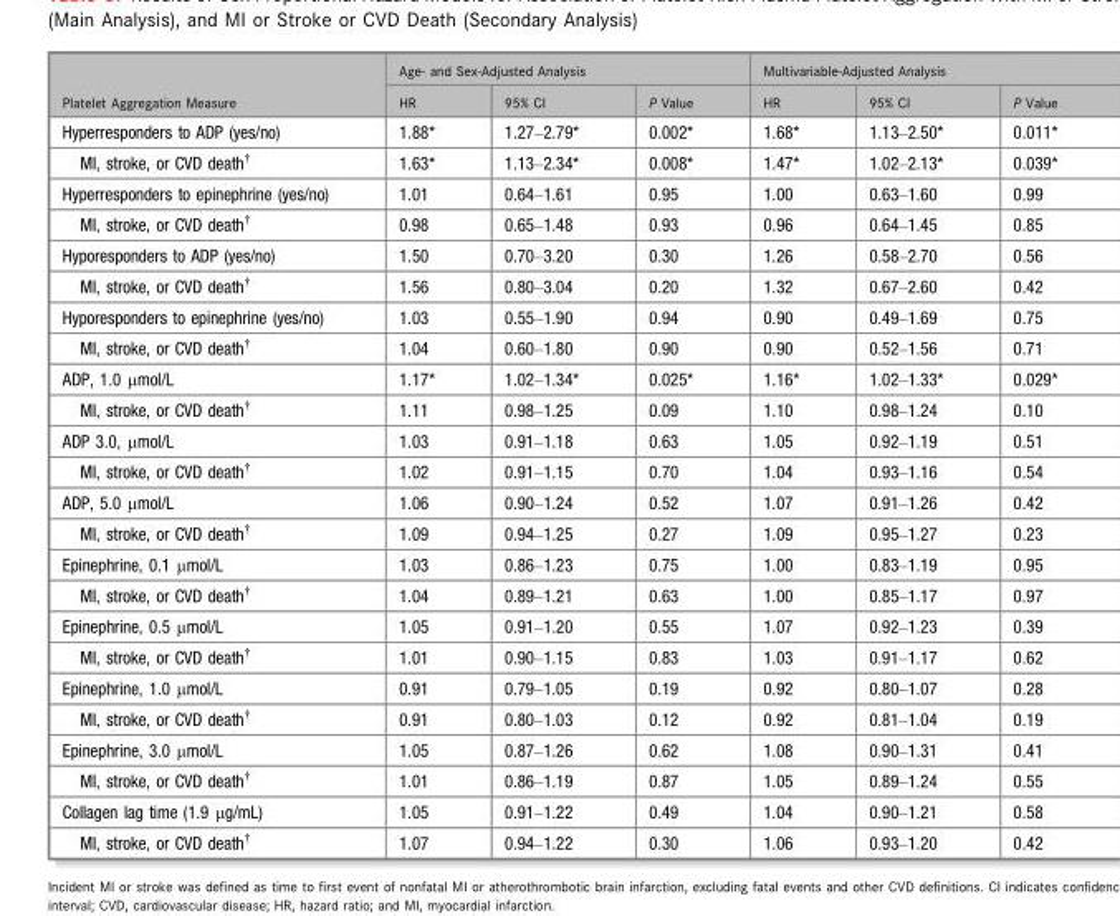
<table><thead><tr><td rowspan="2">Platelet Aggregation Measure</td><td colspan="3">Age- and Sex-Adjusted Analysis</td><td colspan="3">Multivariable-Adjusted Analysis</td></tr><tr><td>HR</td><td>95% CI</td><td>P Value</td><td>HR</td><td>95% CI</td><td>P Value</td></tr></thead><tbody><tr><td>Hyperresponders to ADP (yes/no)</td><td>1.88*</td><td>1.27–2.79*</td><td>0.002*</td><td>1.68*</td><td>1.13–2.50*</td><td>0.011*</td></tr><tr><td>MI, stroke, or CVD death†</td><td>1.63*</td><td>1.13–2.34*</td><td>0.008*</td><td>1.47*</td><td>1.02–2.13*</td><td>0.039*</td></tr><tr><td>Hyperresponders to epinephrine (yes/no)</td><td>1.01</td><td>0.64–1.61</td><td>0.95</td><td>1.00</td><td>0.63–1.60</td><td>0.99</td></tr><tr><td>MI, stroke, or CVD death†</td><td>0.98</td><td>0.65–1.48</td><td>0.93</td><td>0.96</td><td>0.64–1.45</td><td>0.85</td></tr><tr><td>Hyporesponders to ADP (yes/no)</td><td>1.50</td><td>0.70–3.20</td><td>0.30</td><td>1.26</td><td>0.58–2.70</td><td>0.56</td></tr><tr><td>MI, stroke, or CVD death†</td><td>1.56</td><td>0.80–3.04</td><td>0.20</td><td>1.32</td><td>0.67–2.60</td><td>0.42</td></tr><tr><td>Hyporesponders to epinephrine (yes/no)</td><td>1.03</td><td>0.55–1.90</td><td>0.94</td><td>0.90</td><td>0.49–1.69</td><td>0.75</td></tr><tr><td>MI, stroke, or CVD death†</td><td>1.04</td><td>0.60–1.80</td><td>0.90</td><td>0.90</td><td>0.52–1.56</td><td>0.71</td></tr><tr><td>ADP, 1.0 μmol/L</td><td>1.17*</td><td>1.02–1.34*</td><td>0.025*</td><td>1.16*</td><td>1.02–1.33*</td><td>0.029*</td></tr><tr><td>MI, stroke, or CVD death†</td><td>1.11</td><td>0.98–1.25</td><td>0.09</td><td>1.10</td><td>0.98–1.24</td><td>0.10</td></tr><tr><td>ADP 3.0, μmol/L</td><td>1.03</td><td>0.91–1.18</td><td>0.63</td><td>1.05</td><td>0.92–1.19</td><td>0.51</td></tr><tr><td>MI, stroke, or CVD death†</td><td>1.02</td><td>0.91–1.15</td><td>0.70</td><td>1.04</td><td>0.93–1.16</td><td>0.54</td></tr><tr><td>ADP, 5.0 μmol/L</td><td>1.06</td><td>0.90–1.24</td><td>0.52</td><td>1.07</td><td>0.91–1.26</td><td>0.42</td></tr><tr><td>MI, stroke, or CVD death†</td><td>1.09</td><td>0.94–1.25</td><td>0.27</td><td>1.09</td><td>0.95–1.27</td><td>0.23</td></tr><tr><td>Epinephrine, 0.1 μmol/L</td><td>1.03</td><td>0.86–1.23</td><td>0.75</td><td>1.00</td><td>0.83–1.19</td><td>0.95</td></tr><tr><td>MI, stroke, or CVD death†</td><td>1.04</td><td>0.89–1.21</td><td>0.63</td><td>1.00</td><td>0.85–1.17</td><td>0.97</td></tr><tr><td>Epinephrine, 0.5 μmol/L</td><td>1.05</td><td>0.91–1.20</td><td>0.55</td><td>1.07</td><td>0.92–1.23</td><td>0.39</td></tr><tr><td>MI, stroke, or CVD death†</td><td>1.01</td><td>0.90–1.15</td><td>0.83</td><td>1.03</td><td>0.91–1.17</td><td>0.62</td></tr><tr><td>Epinephrine, 1.0 μmol/L</td><td>0.91</td><td>0.79–1.05</td><td>0.19</td><td>0.92</td><td>0.80–1.07</td><td>0.28</td></tr><tr><td>MI, stroke, or CVD death†</td><td>0.91</td><td>0.80–1.03</td><td>0.12</td><td>0.92</td><td>0.81–1.04</td><td>0.19</td></tr><tr><td>Epinephrine, 3.0 μmol/L</td><td>1.05</td><td>0.87–1.26</td><td>0.62</td><td>1.08</td><td>0.90–1.31</td><td>0.41</td></tr><tr><td>MI, stroke, or CVD death†</td><td>1.01</td><td>0.86–1.19</td><td>0.87</td><td>1.05</td><td>0.89–1.24</td><td>0.55</td></tr><tr><td>Collagen lag time (1.9 μg/mL)</td><td>1.05</td><td>0.91–1.22</td><td>0.49</td><td>1.04</td><td>0.90–1.21</td><td>0.58</td></tr><tr><td>MI, stroke, or CVD death†</td><td>1.07</td><td>0.94–1.22</td><td>0.30</td><td>1.06</td><td>0.93–1.20</td><td>0.42</td></tr></tbody></table>